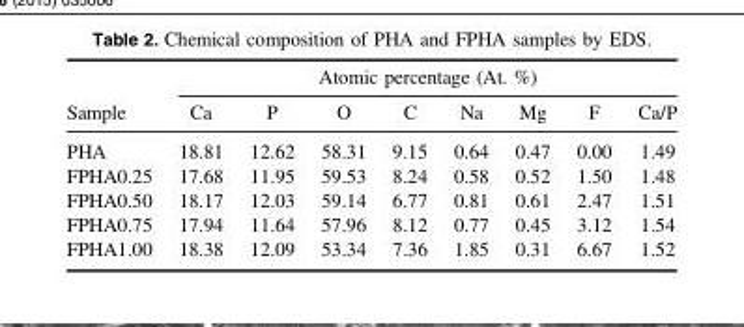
<table><thead><tr><td rowspan="2">Sample</td><td colspan="8">Atomic percentage (At. %)</td></tr><tr><td>Ca</td><td>P</td><td>O</td><td>C</td><td>Na</td><td>Mg</td><td>F</td><td>Ca/P</td></tr></thead><tbody><tr><td>PHA</td><td>18.81</td><td>12.62</td><td>58.31</td><td>9.15</td><td>0.64</td><td>0.47</td><td>0.00</td><td>1.49</td></tr><tr><td>FPHA0.25</td><td>17.68</td><td>11.95</td><td>59.53</td><td>8.24</td><td>0.58</td><td>0.52</td><td>1.50</td><td>1.48</td></tr><tr><td>FPHA0.50</td><td>18.17</td><td>12.03</td><td>59.14</td><td>6.77</td><td>0.81</td><td>0.61</td><td>2.47</td><td>1.51</td></tr><tr><td>FPHA0.75</td><td>17.94</td><td>11.64</td><td>57.96</td><td>8.12</td><td>0.77</td><td>0.45</td><td>3.12</td><td>1.54</td></tr><tr><td>FPHA1.00</td><td>18.38</td><td>12.09</td><td>53.34</td><td>7.36</td><td>1.85</td><td>0.31</td><td>6.67</td><td>1.52</td></tr></tbody></table>